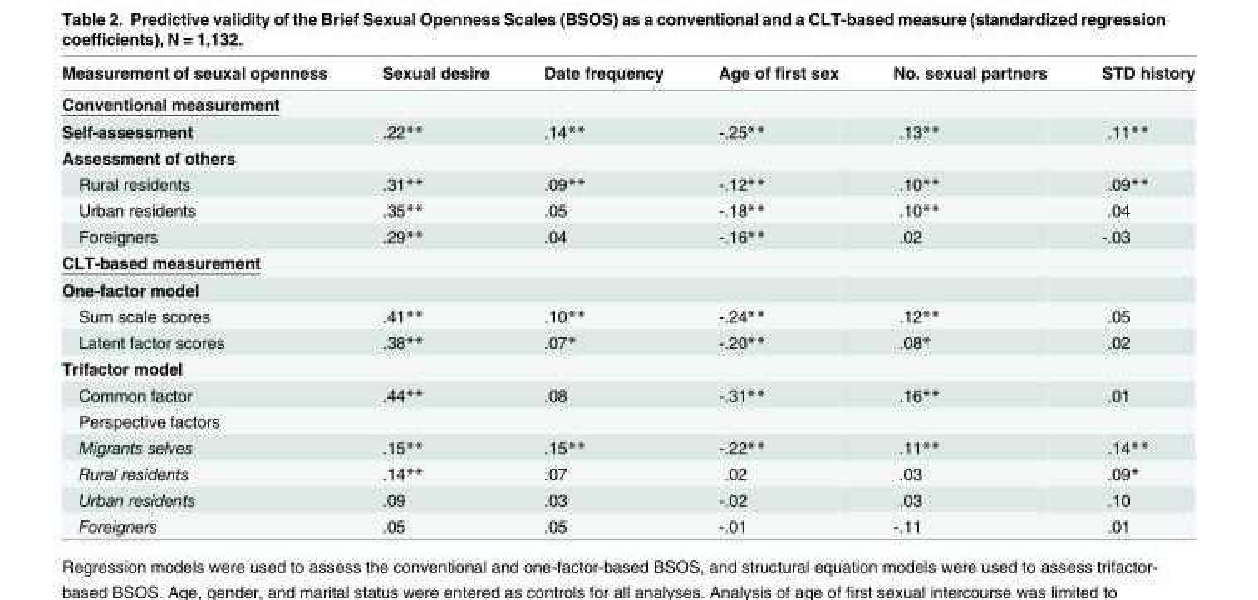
<table><thead><tr><td>Measurement of seuxal openness</td><td>Sexual desire</td><td>Date frequency</td><td>Age of first sex</td><td>No. sexual partners</td><td>STD history</td></tr></thead><tbody><tr><td colspan="6">Conventional measurement</td></tr><tr><td>Self-assessment</td><td>.22**</td><td>.14**</td><td>-.25**</td><td>.13**</td><td>.11**</td></tr><tr><td colspan="6">Assessment of others</td></tr><tr><td>Rural residents</td><td>.31**</td><td>.09**</td><td>-.12**</td><td>.10**</td><td>.09**</td></tr><tr><td>Urban residents</td><td>.35**</td><td>.05</td><td>-.18**</td><td>.10**</td><td>.04</td></tr><tr><td>Foreigners</td><td>.29**</td><td>.04</td><td>-.16**</td><td>.02</td><td>-.03</td></tr><tr><td colspan="6">CLT-based measurement</td></tr><tr><td colspan="6">One-factor model</td></tr><tr><td>Sum scale scores</td><td>.41**</td><td>.10**</td><td>-.24**</td><td>.12**</td><td>.05</td></tr><tr><td>Latent factor scores</td><td>.38**</td><td>.07*</td><td>-.20**</td><td>.08*</td><td>.02</td></tr><tr><td colspan="6">Trifactor model</td></tr><tr><td>Common factor</td><td>.44**</td><td>.08</td><td>-.31**</td><td>.16**</td><td>.01</td></tr><tr><td colspan="6">Perspective factors</td></tr><tr><td>Migrants selves</td><td>.15**</td><td>.15**</td><td>-.22**</td><td>.11**</td><td>.14**</td></tr><tr><td>Rural residents</td><td>.14**</td><td>.07</td><td>.02</td><td>.03</td><td>.09*</td></tr><tr><td>Urban residents</td><td>.09</td><td>.03</td><td>-.02</td><td>.03</td><td>.10</td></tr><tr><td>Foreigners</td><td>.05</td><td>.05</td><td>-.01</td><td>-.11</td><td>.01</td></tr></tbody></table>